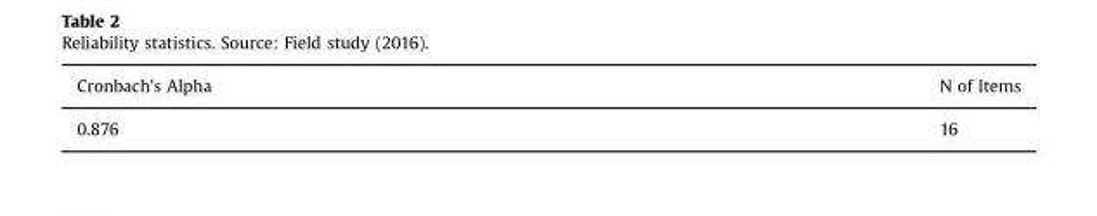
<table><thead><tr><td>Cronbach’s Alpha</td><td>N of Items</td></tr></thead><tbody><tr><td>0.876</td><td>16</td></tr></tbody></table>